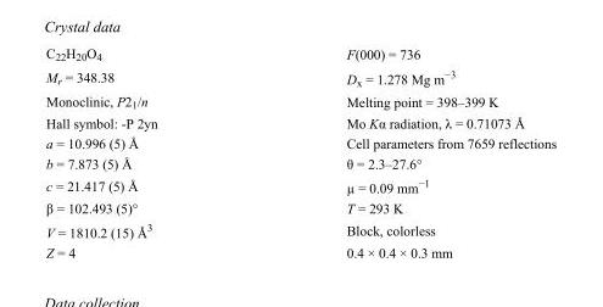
<table><tbody><tr><td>C<sub>22</sub>H<sub>20</sub>O<sub>4</sub></td><td>F(000) = 736</td></tr><tr><td>M<sub>r</sub> = 348.38</td><td>D<sub>x</sub> = 1.278 Mg m<sup>−3</sup></td></tr><tr><td>Monoclinic, P2<sub>1</sub>/n</td><td>Melting point = 398–399 K</td></tr><tr><td>Hall symbol: -P 2yn</td><td>Mo Kα radiation, λ = 0.71073 Å</td></tr><tr><td>a = 10.996 (5) Å</td><td>Cell parameters from 7659 reflections</td></tr><tr><td>b = 7.873 (5) Å</td><td>θ = 2.3–27.6°</td></tr><tr><td>c = 21.417 (5) Å</td><td>µ = 0.09 mm<sup>−1</sup></td></tr><tr><td>β = 102.493 (5)°</td><td>T = 293 K</td></tr><tr><td>V = 1810.2 (15) Å<sup>3</sup></td><td>Block, colorless</td></tr><tr><td>Z = 4</td><td>0.4 × 0.4 × 0.3 mm</td></tr></tbody></table>